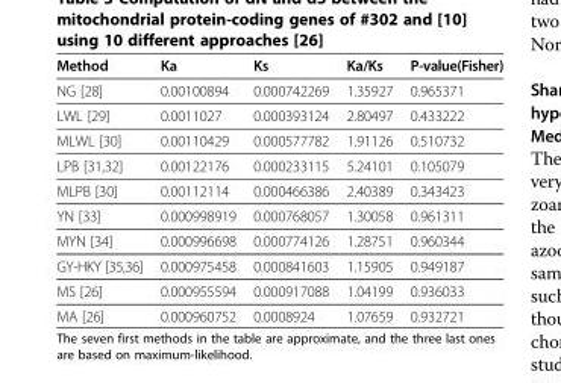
<table><thead><tr><td>Method</td><td>Ka</td><td>Ks</td><td>Ka/Ks</td><td>P-value(Fisher)</td></tr></thead><tbody><tr><td>NG [28]</td><td>0.00100894</td><td>0.000742269</td><td>1.35927</td><td>0.965371</td></tr><tr><td>LWL [29]</td><td>0.0011027</td><td>0.000393124</td><td>2.80497</td><td>0.433222</td></tr><tr><td>MLWL [30]</td><td>0.00110429</td><td>0.000577782</td><td>1.91126</td><td>0.510732</td></tr><tr><td>LPB [31,32]</td><td>0.00122176</td><td>0.000233115</td><td>5.24101</td><td>0.105079</td></tr><tr><td>MLPB [30]</td><td>0.00112114</td><td>0.000466386</td><td>2.40389</td><td>0.343423</td></tr><tr><td>YN [33]</td><td>0.000998919</td><td>0.000768057</td><td>1.30058</td><td>0.961311</td></tr><tr><td>MYN [34]</td><td>0.000996698</td><td>0.000774126</td><td>1.28751</td><td>0.960344</td></tr><tr><td>GY-HKY [35,36]</td><td>0.000975458</td><td>0.000841603</td><td>1.15905</td><td>0.949187</td></tr><tr><td>MS [26]</td><td>0.000955594</td><td>0.000917088</td><td>1.04199</td><td>0.936033</td></tr><tr><td>MA [26]</td><td>0.000960752</td><td>0.0008924</td><td>1.07659</td><td>0.932721</td></tr></tbody></table>